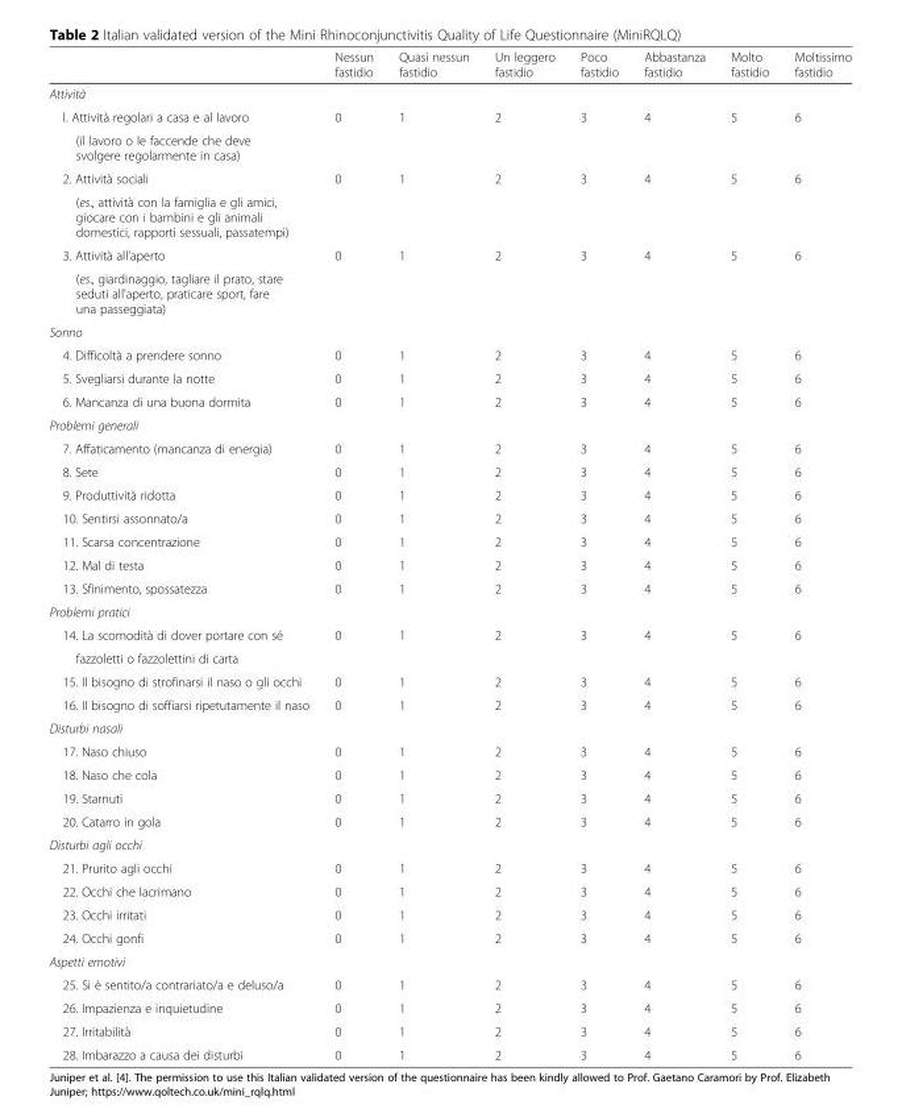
<table><thead><tr><td></td><td>Nessun fastidio</td><td>Quasi nessun fastidio</td><td>Un leggero fastidio</td><td>Poco fastidio</td><td>Abbastanza fastidio</td><td>Molto fastidio</td><td>Moltissimo fastidio</td></tr></thead><tbody><tr><td colspan="8">Attività</td></tr><tr><td>l. Attività regolari a casa e al lavoro</td><td>0</td><td>1</td><td>2</td><td>3</td><td>4</td><td>5</td><td>6</td></tr><tr><td colspan="8">(il lavoro o le faccende che deve svolgere regolarmente in casa)</td></tr><tr><td>2. Attività sociali</td><td>0</td><td>1</td><td>2</td><td>3</td><td>4</td><td>5</td><td>6</td></tr><tr><td colspan="8">(es., attività con la famiglia e gli amici, giocare con i bambini e gli animali domestici, rapporti sessuali, passatempi)</td></tr><tr><td>3. Attività all&#x27;aperto</td><td>0</td><td>1</td><td>2</td><td>3</td><td>4</td><td>5</td><td>6</td></tr><tr><td colspan="8">(es., giardinaggio, tagliare il prato, stare seduti all&#x27;aperto, praticare sport, fare una passeggiata)</td></tr><tr><td colspan="8">Sonno</td></tr><tr><td>4. Difficoltà a prendere sonno</td><td>0</td><td>1</td><td>2</td><td>3</td><td>4</td><td>5</td><td>6</td></tr><tr><td>5. Svegliarsi durante la notte</td><td>0</td><td>1</td><td>2</td><td>3</td><td>4</td><td>5</td><td>6</td></tr><tr><td>6. Mancanza di una buona dormita</td><td>0</td><td>1</td><td>2</td><td>3</td><td>4</td><td>5</td><td>6</td></tr><tr><td colspan="8">Problemi generali</td></tr><tr><td>7. Affaticamento (mancanza di energia)</td><td>0</td><td>1</td><td>2</td><td>3</td><td>4</td><td>5</td><td>6</td></tr><tr><td>8. Sete</td><td>0</td><td>1</td><td>2</td><td>3</td><td>4</td><td>5</td><td>6</td></tr><tr><td>9. Produttività ridotta</td><td>0</td><td>1</td><td>2</td><td>3</td><td>4</td><td>5</td><td>6</td></tr><tr><td>10. Sentirsi assonnato/a</td><td>0</td><td>1</td><td>2</td><td>3</td><td>4</td><td>5</td><td>6</td></tr><tr><td>11. Scarsa concentrazione</td><td>0</td><td>1</td><td>2</td><td>3</td><td>4</td><td>5</td><td>6</td></tr><tr><td>12. Mal di testa</td><td>0</td><td>1</td><td>2</td><td>3</td><td>4</td><td>5</td><td>6</td></tr><tr><td>13. Sfinimento, spossatezza</td><td>0</td><td>1</td><td>2</td><td>3</td><td>4</td><td>5</td><td>6</td></tr><tr><td colspan="8">Problemi pratici</td></tr><tr><td>14. La scomodità di dover portare con sé</td><td>0</td><td>1</td><td>2</td><td>3</td><td>4</td><td>5</td><td>6</td></tr><tr><td colspan="8">fazzoletti o fazzolettini di carta</td></tr><tr><td>15. Il bisogno di strofinarsi il naso o gli occhi</td><td>0</td><td>1</td><td>2</td><td>3</td><td>4</td><td>5</td><td>6</td></tr><tr><td>16. Il bisogno di soffiarsi ripetutamente il naso</td><td>0</td><td>1</td><td>2</td><td>3</td><td>4</td><td>5</td><td>6</td></tr><tr><td colspan="8">Disturbi nasali</td></tr><tr><td>17. Naso chiuso</td><td>0</td><td>1</td><td>2</td><td>3</td><td>4</td><td>5</td><td>6</td></tr><tr><td>18. Naso che cola</td><td>0</td><td>1</td><td>2</td><td>3</td><td>4</td><td>5</td><td>6</td></tr><tr><td>19. Starnuti</td><td>0</td><td>1</td><td>2</td><td>3</td><td>4</td><td>5</td><td>6</td></tr><tr><td>20. Catarro in gola</td><td>0</td><td>1</td><td>2</td><td>3</td><td>4</td><td>5</td><td>6</td></tr><tr><td colspan="8">Disturbi agli occhi</td></tr><tr><td>21. Prurito agli occhi</td><td>0</td><td>1</td><td>2</td><td>3</td><td>4</td><td>5</td><td>6</td></tr><tr><td>22. Occhi che lacrimano</td><td>0</td><td>1</td><td>2</td><td>3</td><td>4</td><td>5</td><td>6</td></tr><tr><td>23. Occhi irritati</td><td>0</td><td>1</td><td>2</td><td>3</td><td>4</td><td>5</td><td>6</td></tr><tr><td>24. Occhi gonfi</td><td>0</td><td>1</td><td>2</td><td>3</td><td>4</td><td>5</td><td>6</td></tr><tr><td colspan="8">Aspetti emotivi</td></tr><tr><td>25. Si è sentito/a contrariato/a e deluso/a</td><td>0</td><td>1</td><td>2</td><td>3</td><td>4</td><td>5</td><td>6</td></tr><tr><td>26. Impazienza e inquietudine</td><td>0</td><td>1</td><td>2</td><td>3</td><td>4</td><td>5</td><td>6</td></tr><tr><td>27. Irritabilità</td><td>0</td><td>1</td><td>2</td><td>3</td><td>4</td><td>5</td><td>6</td></tr><tr><td>28. Imbarazzo a causa dei disturbi</td><td>0</td><td>1</td><td>2</td><td>3</td><td>4</td><td>5</td><td>6</td></tr></tbody></table>